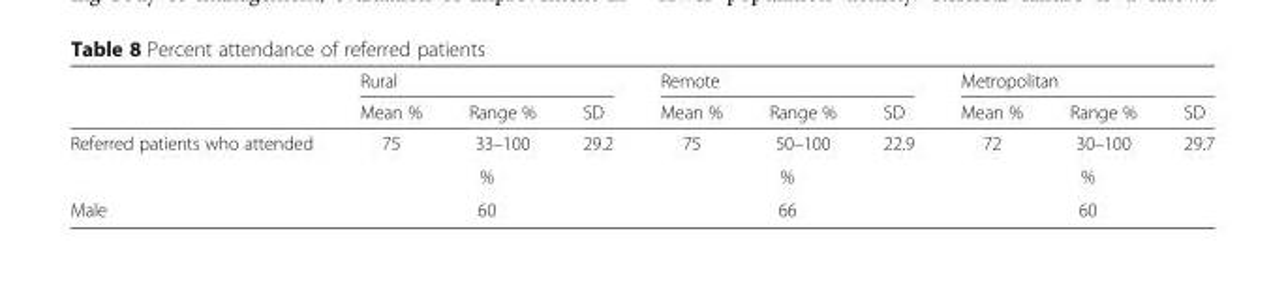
<table><thead><tr><td rowspan="2"></td><td colspan="3">Rural</td><td colspan="3">Remote</td><td colspan="3">Metropolitan</td></tr><tr><td>Mean %</td><td>Range %</td><td>SD</td><td>Mean %</td><td>Range %</td><td>SD</td><td>Mean %</td><td>Range %</td><td>SD</td></tr></thead><tbody><tr><td rowspan="2">Referred patients who attended</td><td>75</td><td>33–100</td><td>29.2</td><td>75</td><td>50–100</td><td>22.9</td><td>72</td><td>30–100</td><td>29.7</td></tr><tr><td colspan="3">%</td><td colspan="3">%</td><td colspan="3">%</td></tr><tr><td>Male</td><td colspan="3">60</td><td colspan="3">66</td><td colspan="3">60</td></tr></tbody></table>